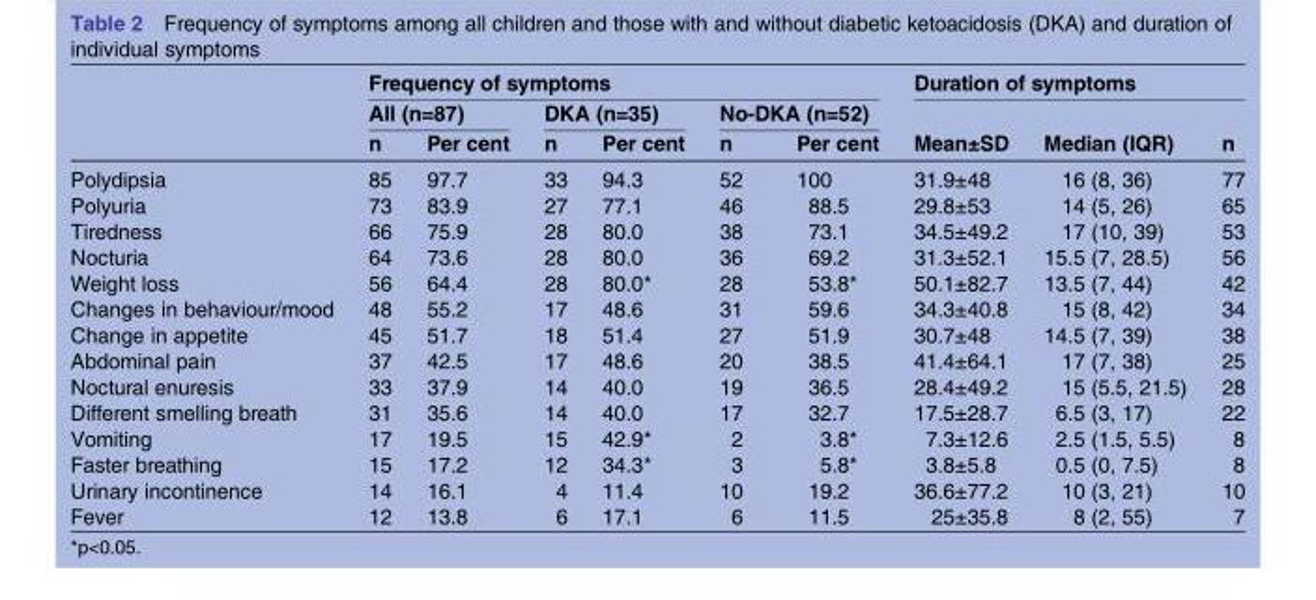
<table><thead><tr><td rowspan="3"></td><td colspan="6">Frequency of symptoms</td><td colspan="3">Duration of symptoms</td></tr><tr><td colspan="2">All (n=87)</td><td colspan="2">DKA (n=35)</td><td colspan="2">No-DKA (n=52)</td><td rowspan="2">Mean±SD</td><td rowspan="2">Median (IQR)</td><td rowspan="2">n</td></tr><tr><td>n</td><td>Per cent</td><td>n</td><td>Per cent</td><td>n</td><td>Per cent</td></tr></thead><tbody><tr><td>Polydipsia</td><td>85</td><td>97.7</td><td>33</td><td>94.3</td><td>52</td><td>100</td><td>31.9±48</td><td>16 (8, 36)</td><td>77</td></tr><tr><td>Polyuria</td><td>73</td><td>83.9</td><td>27</td><td>77.1</td><td>46</td><td>88.5</td><td>29.8±53</td><td>14 (5, 26)</td><td>65</td></tr><tr><td>Tiredness</td><td>66</td><td>75.9</td><td>28</td><td>80.0</td><td>38</td><td>73.1</td><td>34.5±49.2</td><td>17 (10, 39)</td><td>53</td></tr><tr><td>Nocturia</td><td>64</td><td>73.6</td><td>28</td><td>80.0</td><td>36</td><td>69.2</td><td>31.3±52.1</td><td>15.5 (7, 28.5)</td><td>56</td></tr><tr><td>Weight loss</td><td>56</td><td>64.4</td><td>28</td><td>80.0*</td><td>28</td><td>53.8*</td><td>50.1±82.7</td><td>13.5 (7, 44)</td><td>42</td></tr><tr><td>Changes in behaviour/mood</td><td>48</td><td>55.2</td><td>17</td><td>48.6</td><td>31</td><td>59.6</td><td>34.3±40.8</td><td>15 (8, 42)</td><td>34</td></tr><tr><td>Change in appetite</td><td>45</td><td>51.7</td><td>18</td><td>51.4</td><td>27</td><td>51.9</td><td>30.7±48</td><td>14.5 (7, 39)</td><td>38</td></tr><tr><td>Abdominal pain</td><td>37</td><td>42.5</td><td>17</td><td>48.6</td><td>20</td><td>38.5</td><td>41.4±64.1</td><td>17 (7, 38)</td><td>25</td></tr><tr><td>Noctural enuresis</td><td>33</td><td>37.9</td><td>14</td><td>40.0</td><td>19</td><td>36.5</td><td>28.4±49.2</td><td>15 (5.5, 21.5)</td><td>28</td></tr><tr><td>Different smelling breath</td><td>31</td><td>35.6</td><td>14</td><td>40.0</td><td>17</td><td>32.7</td><td>17.5±28.7</td><td>6.5 (3, 17)</td><td>22</td></tr><tr><td>Vomiting</td><td>17</td><td>19.5</td><td>15</td><td>42.9*</td><td>2</td><td>3.8*</td><td>7.3±12.6</td><td>2.5 (1.5, 5.5)</td><td>8</td></tr><tr><td>Faster breathing</td><td>15</td><td>17.2</td><td>12</td><td>34.3*</td><td>3</td><td>5.8*</td><td>3.8±5.8</td><td>0.5 (0, 7.5)</td><td>8</td></tr><tr><td>Urinary incontinence</td><td>14</td><td>16.1</td><td>4</td><td>11.4</td><td>10</td><td>19.2</td><td>36.6±77.2</td><td>10 (3, 21)</td><td>10</td></tr><tr><td>Fever</td><td>12</td><td>13.8</td><td>6</td><td>17.1</td><td>6</td><td>11.5</td><td>25±35.8</td><td>8 (2, 55)</td><td>7</td></tr></tbody></table>